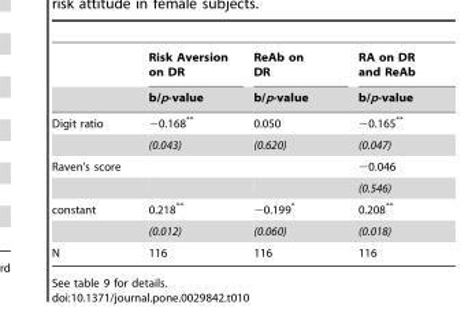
<table><thead><tr><td rowspan="2"></td><td rowspan="2">Risk Aversion on DR b/p-value</td><td rowspan="2">ReAb on DR b/p-value</td><td rowspan="2">RA on DR and ReAb b/p-value</td></tr><tr></tr></thead><tbody><tr><td rowspan="2">Digit ratio</td><td>−0.168**</td><td>0.050</td><td>−0.165**</td></tr><tr><td>(0.043)</td><td>(0.620)</td><td>(0.047)</td></tr><tr><td rowspan="2">Raven’s score</td><td></td><td></td><td>−0.046</td></tr><tr><td></td><td></td><td>(0.546)</td></tr><tr><td rowspan="2">constant</td><td>0.218**</td><td>−0.199*</td><td>0.208**</td></tr><tr><td>(0.012)</td><td>(0.060)</td><td>(0.018)</td></tr><tr><td>N</td><td>116</td><td>116</td><td>116</td></tr></tbody></table>